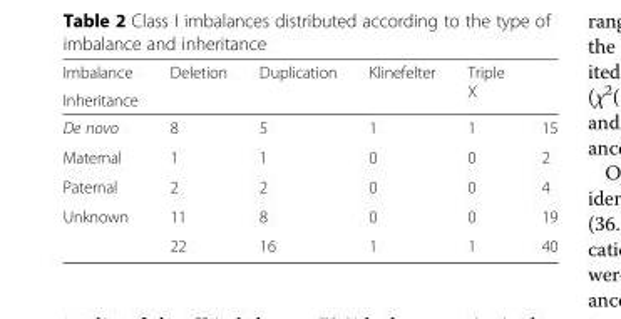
<table><thead><tr><td rowspan="2">Imbalance Inheritance</td><td rowspan="2">Deletion</td><td rowspan="2">Duplication</td><td rowspan="2">Klinefelter</td><td rowspan="2">Triple X</td><td rowspan="2"></td></tr><tr></tr></thead><tbody><tr><td>De novo</td><td>8</td><td>5</td><td>1</td><td>1</td><td>15</td></tr><tr><td>Maternal</td><td>1</td><td>1</td><td>0</td><td>0</td><td>2</td></tr><tr><td>Paternal</td><td>2</td><td>2</td><td>0</td><td>0</td><td>4</td></tr><tr><td rowspan="2">Unknown</td><td>11</td><td>8</td><td>0</td><td>0</td><td>19</td></tr><tr><td>22</td><td>16</td><td>1</td><td>1</td><td>40</td></tr></tbody></table>